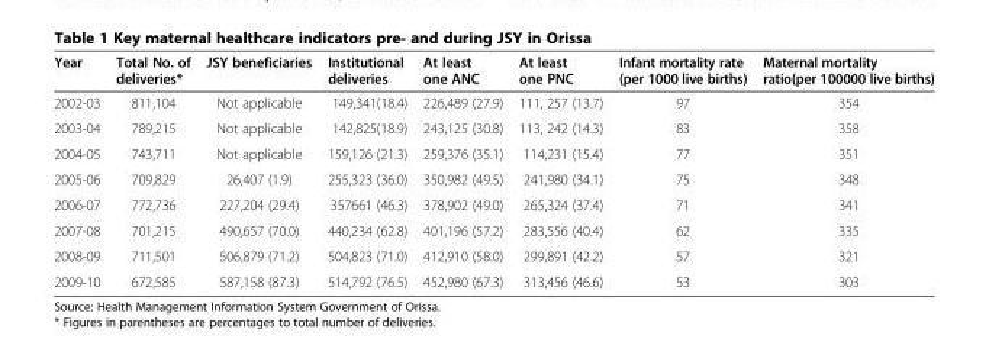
<table><thead><tr><td>Year</td><td>Total No. of deliveries*</td><td>JSY beneficiaries</td><td>Institutional deliveries</td><td>At least one ANC</td><td>At least one PNC</td><td>Infant mortality rate (per 1000 live births)</td><td>Maternal mortality ratio(per 100000 live births)</td></tr></thead><tbody><tr><td>2002-03</td><td>811,104</td><td>Not applicable</td><td>149,341(18.4)</td><td>226,489 (27.9)</td><td>111, 257 (13.7)</td><td>97</td><td>354</td></tr><tr><td>2003-04</td><td>789,215</td><td>Not applicable</td><td>142,825(18.9)</td><td>243,125 (30.8)</td><td>113, 242 (14.3)</td><td>83</td><td>358</td></tr><tr><td>2004-05</td><td>743,711</td><td>Not applicable</td><td>159,126 (21.3)</td><td>259,376 (35.1)</td><td>114,231 (15.4)</td><td>77</td><td>351</td></tr><tr><td>2005-06</td><td>709,829</td><td>26,407 (1.9)</td><td>255,323 (36.0)</td><td>350,982 (49.5)</td><td>241,980 (34.1)</td><td>75</td><td>348</td></tr><tr><td>2006-07</td><td>772,736</td><td>227,204 (29.4)</td><td>357661 (46.3)</td><td>378,902 (49.0)</td><td>265,324 (37.4)</td><td>71</td><td>341</td></tr><tr><td>2007-08</td><td>701,215</td><td>490,657 (70.0)</td><td>440,234 (62.8)</td><td>401,196 (57.2)</td><td>283,556 (40.4)</td><td>62</td><td>335</td></tr><tr><td>2008-09</td><td>711,501</td><td>506,879 (71.2)</td><td>504,823 (71.0)</td><td>412,910 (58.0)</td><td>299,891 (42.2)</td><td>57</td><td>321</td></tr><tr><td>2009-10</td><td>672,585</td><td>587,158 (87.3)</td><td>514,792 (76.5)</td><td>452,980 (67.3)</td><td>313,456 (46.6)</td><td>53</td><td>303</td></tr></tbody></table>